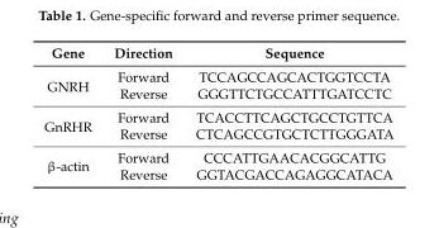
<table><thead><tr><td>Gene</td><td>Direction</td><td>Sequence</td></tr></thead><tbody><tr><td rowspan="2">GNRH</td><td>Forward</td><td>TCCAGCCAGCACTGGTCCTA</td></tr><tr><td>Reverse</td><td>GGGTTCTGCCATTTGATCCTC</td></tr><tr><td rowspan="2">GnRHR</td><td>Forward</td><td>TCACCTTCAGCTGCCTGTTCA</td></tr><tr><td>Reverse</td><td>CTCAGCCGTGCTCTTGGGATA</td></tr><tr><td rowspan="2">β-actin</td><td>Forward</td><td>CCCATTGAACACGGCATTG</td></tr><tr><td>Reverse</td><td>GGTACGACCAGAGGCATACA</td></tr></tbody></table>